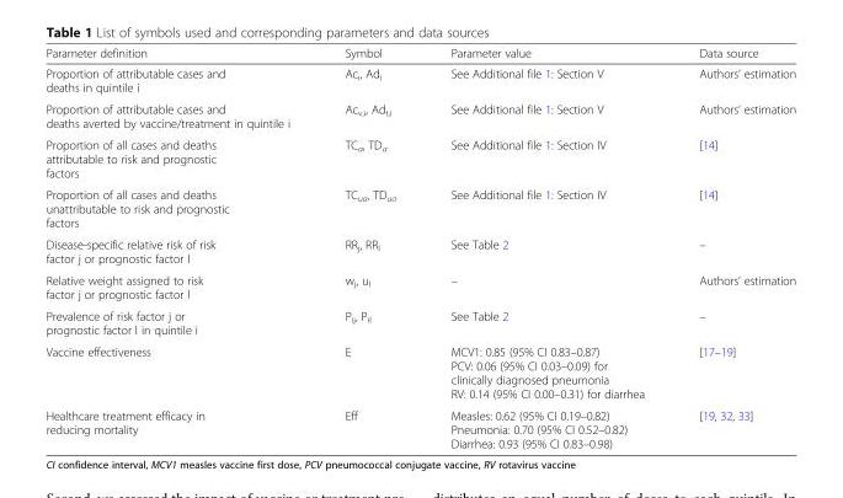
<table><thead><tr><td>Parameter definition</td><td>Symbol</td><td>Parameter value</td><td>Data source</td></tr></thead><tbody><tr><td>Proportion of attributable cases and deaths in quintile i</td><td>Ac<sub>i</sub>, Ad<sub>i</sub></td><td>See Additional file 1: Section V</td><td>Authors’ estimation</td></tr><tr><td>Proportion of attributable cases and deaths averted by vaccine/treatment in quintile i</td><td>Ac<sub>v,i</sub>, Ad<sub>t,i</sub></td><td>See Additional file 1: Section V</td><td>Authors’ estimation</td></tr><tr><td>Proportion of all cases and deaths attributable to risk and prognostic factors</td><td>TC<sub>a</sub>, TD<sub>a</sub></td><td>See Additional file 1: Section IV</td><td>[14]</td></tr><tr><td>Proportion of all cases and deaths unattributable to risk and prognostic factors</td><td>TC<sub>ua</sub>, TD<sub>ua</sub></td><td>See Additional file 1: Section IV</td><td>[14]</td></tr><tr><td>Disease-specific relative risk of risk factor j or prognostic factor l</td><td>RR<sub>j</sub>, RR<sub>l</sub></td><td>See Table 2</td><td>–</td></tr><tr><td>Relative weight assigned to risk factor j or prognostic factor l</td><td>w<sub>j</sub>, u<sub>l</sub></td><td>–</td><td>Authors’ estimation</td></tr><tr><td>Prevalence of risk factor j or prognostic factor l in quintile i</td><td>P<sub>ij</sub>, P<sub>il</sub></td><td>See Table 2</td><td>–</td></tr><tr><td>Vaccine effectiveness</td><td>E</td><td>MCV1: 0.85 (95% CI 0.83–0.87) PCV: 0.06 (95% CI 0.03–0.09) for clinically diagnosed pneumonia RV: 0.14 (95% CI 0.00–0.31) for diarrhea</td><td>[17–19]</td></tr><tr><td>Healthcare treatment efficacy in reducing mortality</td><td>Eff</td><td>Measles: 0.62 (95% CI 0.19–0.82) Pneumonia: 0.70 (95% CI 0.52–0.82) Diarrhea: 0.93 (95% CI 0.83–0.98)</td><td>[19, 32, 33]</td></tr></tbody></table>